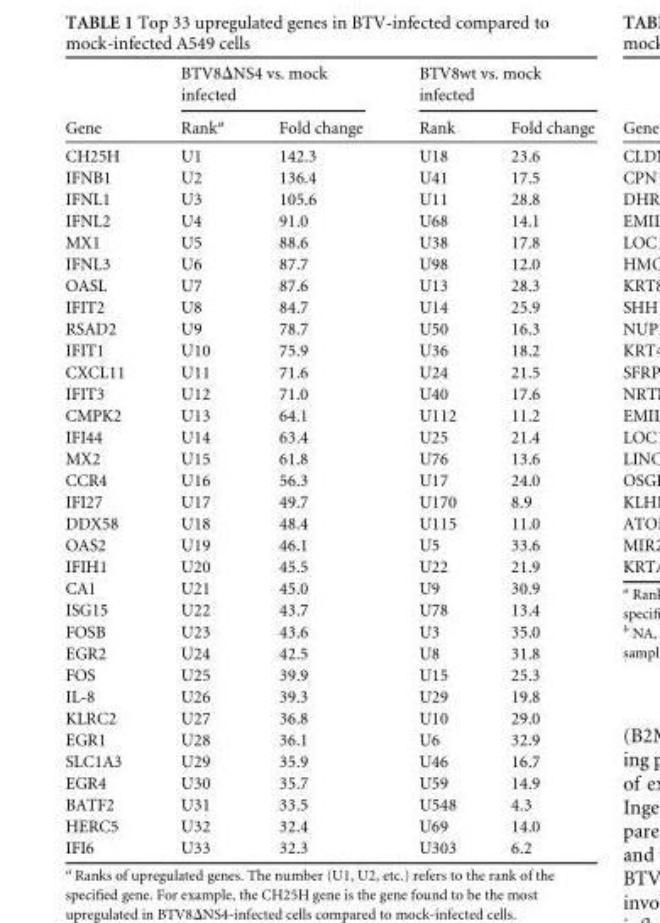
<table><thead><tr><td rowspan="2">Gene</td><td colspan="2">BTV8ΔNS4 vs. mock infected</td><td colspan="2">BTV8wt vs. mock infected</td></tr><tr><td>Rank<sup>a</sup></td><td>Fold change</td><td>Rank</td><td>Fold change</td></tr></thead><tbody><tr><td>CH25H</td><td>U1</td><td>142.3</td><td>U18</td><td>23.6</td></tr><tr><td>IFNB1</td><td>U2</td><td>136.4</td><td>U41</td><td>17.5</td></tr><tr><td>IFNL1</td><td>U3</td><td>105.6</td><td>U11</td><td>28.8</td></tr><tr><td>IFNL2</td><td>U4</td><td>91.0</td><td>U68</td><td>14.1</td></tr><tr><td>MX1</td><td>U5</td><td>88.6</td><td>U38</td><td>17.8</td></tr><tr><td>IFNL3</td><td>U6</td><td>87.7</td><td>U98</td><td>12.0</td></tr><tr><td>OASL</td><td>U7</td><td>87.6</td><td>U13</td><td>28.3</td></tr><tr><td>IFIT2</td><td>U8</td><td>84.7</td><td>U14</td><td>25.9</td></tr><tr><td>RSAD2</td><td>U9</td><td>78.7</td><td>U50</td><td>16.3</td></tr><tr><td>IFIT1</td><td>U10</td><td>75.9</td><td>U36</td><td>18.2</td></tr><tr><td>CXCL11</td><td>U11</td><td>71.6</td><td>U24</td><td>21.5</td></tr><tr><td>IFIT3</td><td>U12</td><td>71.0</td><td>U40</td><td>17.6</td></tr><tr><td>CMPK2</td><td>U13</td><td>64.1</td><td>U112</td><td>11.2</td></tr><tr><td>IFI44</td><td>U14</td><td>63.4</td><td>U25</td><td>21.4</td></tr><tr><td>MX2</td><td>U15</td><td>61.8</td><td>U76</td><td>13.6</td></tr><tr><td>CCR4</td><td>U16</td><td>56.3</td><td>U17</td><td>24.0</td></tr><tr><td>IFI27</td><td>U17</td><td>49.7</td><td>U170</td><td>8.9</td></tr><tr><td>DDX58</td><td>U18</td><td>48.4</td><td>U115</td><td>11.0</td></tr><tr><td>OAS2</td><td>U19</td><td>46.1</td><td>U5</td><td>33.6</td></tr><tr><td>IFIH1</td><td>U20</td><td>45.5</td><td>U22</td><td>21.9</td></tr><tr><td>CA1</td><td>U21</td><td>45.0</td><td>U9</td><td>30.9</td></tr><tr><td>ISG15</td><td>U22</td><td>43.7</td><td>U78</td><td>13.4</td></tr><tr><td>FOSB</td><td>U23</td><td>43.6</td><td>U3</td><td>35.0</td></tr><tr><td>EGR2</td><td>U24</td><td>42.5</td><td>U8</td><td>31.8</td></tr><tr><td>FOS</td><td>U25</td><td>39.9</td><td>U15</td><td>25.3</td></tr><tr><td>IL-8</td><td>U26</td><td>39.3</td><td>U29</td><td>19.8</td></tr><tr><td>KLRC2</td><td>U27</td><td>36.8</td><td>U10</td><td>29.0</td></tr><tr><td>EGR1</td><td>U28</td><td>36.1</td><td>U6</td><td>32.9</td></tr><tr><td>SLC1A3</td><td>U29</td><td>35.9</td><td>U46</td><td>16.7</td></tr><tr><td>EGR4</td><td>U30</td><td>35.7</td><td>U59</td><td>14.9</td></tr><tr><td>BATF2</td><td>U31</td><td>33.5</td><td>U548</td><td>4.3</td></tr><tr><td>HERC5</td><td>U32</td><td>32.4</td><td>U69</td><td>14.0</td></tr><tr><td>IFI6</td><td>U33</td><td>32.3</td><td>U303</td><td>6.2</td></tr></tbody></table>